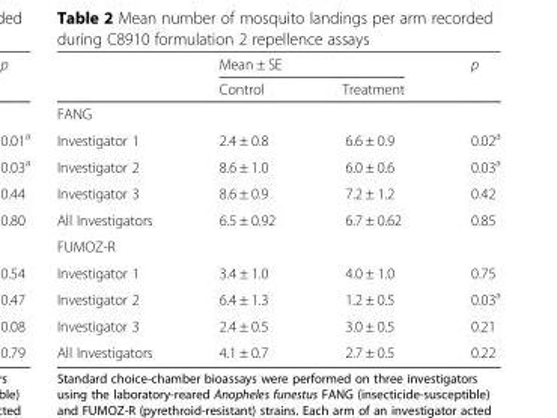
<table><thead><tr><td rowspan="2"></td><td colspan="2">Mean ± SE</td><td rowspan="2">p</td></tr><tr><td>Control</td><td>Treatment</td></tr></thead><tbody><tr><td colspan="4">FANG</td></tr><tr><td>Investigator 1</td><td>2.4 ± 0.8</td><td>6.6 ± 0.9</td><td>0.02<sup>a</sup></td></tr><tr><td>Investigator 2</td><td>8.6 ± 1.0</td><td>6.0 ± 0.6</td><td>0.03<sup>a</sup></td></tr><tr><td>Investigator 3</td><td>8.6 ± 0.9</td><td>7.2 ± 1.2</td><td>0.42</td></tr><tr><td>All Investigators</td><td>6.5 ± 0.92</td><td>6.7 ± 0.62</td><td>0.85</td></tr><tr><td colspan="4">FUMOZ-R</td></tr><tr><td>Investigator 1</td><td>3.4 ± 1.0</td><td>4.0 ± 1.0</td><td>0.75</td></tr><tr><td>Investigator 2</td><td>6.4 ± 1.3</td><td>1.2 ± 0.5</td><td>0.03<sup>a</sup></td></tr><tr><td>Investigator 3</td><td>2.4 ± 0.5</td><td>3.0 ± 0.5</td><td>0.21</td></tr><tr><td>All Investigators</td><td>4.1 ± 0.7</td><td>2.7 ± 0.5</td><td>0.22</td></tr></tbody></table>